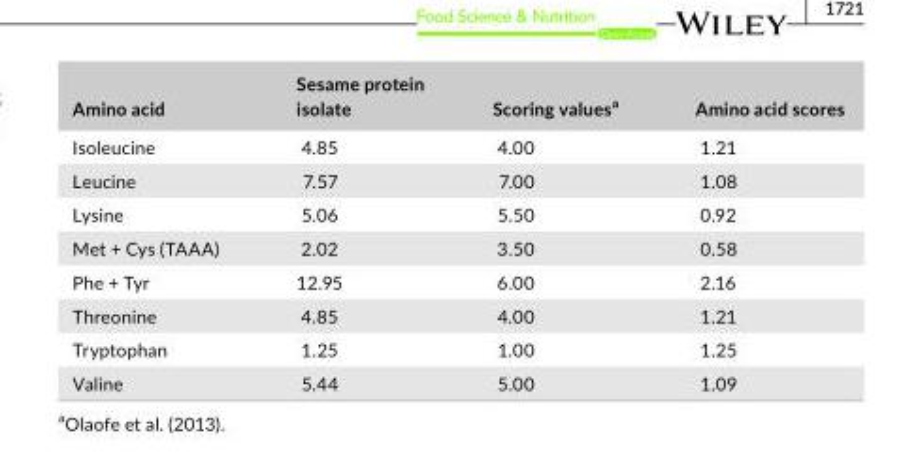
<table><thead><tr><td>Amino acid</td><td>Sesame protein isolate</td><td>Scoring values<sup>a</sup></td><td>Amino acid scores</td></tr></thead><tbody><tr><td>Isoleucine</td><td>4.85</td><td>4.00</td><td>1.21</td></tr><tr><td>Leucine</td><td>7.57</td><td>7.00</td><td>1.08</td></tr><tr><td>Lysine</td><td>5.06</td><td>5.50</td><td>0.92</td></tr><tr><td>Met + Cys (TAAA)</td><td>2.02</td><td>3.50</td><td>0.58</td></tr><tr><td>Phe + Tyr</td><td>12.95</td><td>6.00</td><td>2.16</td></tr><tr><td>Threonine</td><td>4.85</td><td>4.00</td><td>1.21</td></tr><tr><td>Tryptophan</td><td>1.25</td><td>1.00</td><td>1.25</td></tr><tr><td>Valine</td><td>5.44</td><td>5.00</td><td>1.09</td></tr></tbody></table>